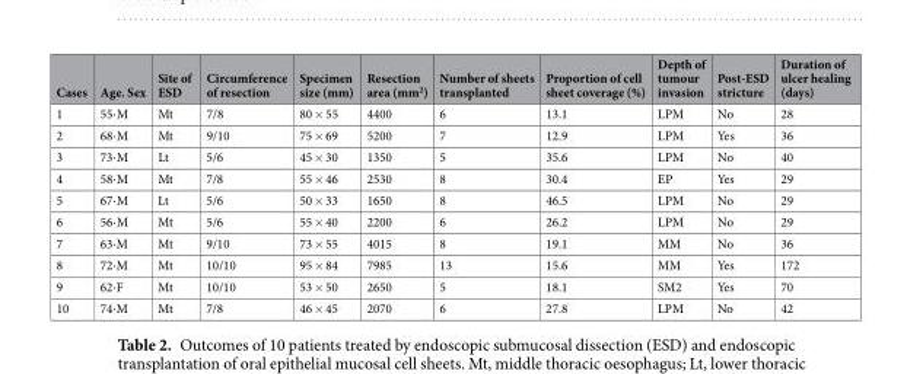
<table><thead><tr><td>Cases</td><td>Age. Sex</td><td>Site of ESD</td><td>Circumference of resection</td><td>Specimen size (mm)</td><td>Resection area (mm<sup>2</sup>)</td><td>Number of sheets transplanted</td><td>Proportion of cell sheet coverage (%)</td><td>Depth of tumour invasion</td><td>Post-ESD stricture</td><td>Duration of ulcer healing (days)</td></tr></thead><tbody><tr><td>1</td><td>55⋅M</td><td>Mt</td><td>7/8</td><td>80 × 55</td><td>4400</td><td>6</td><td>13.1</td><td>LPM</td><td>No</td><td>28</td></tr><tr><td>2</td><td>68⋅M</td><td>Mt</td><td>9/10</td><td>75 × 69</td><td>5200</td><td>7</td><td>12.9</td><td>LPM</td><td>Yes</td><td>36</td></tr><tr><td>3</td><td>73⋅M</td><td>Lt</td><td>5/6</td><td>45 × 30</td><td>1350</td><td>5</td><td>35.6</td><td>LPM</td><td>No</td><td>40</td></tr><tr><td>4</td><td>58⋅M</td><td>Mt</td><td>7/8</td><td>55 × 46</td><td>2530</td><td>8</td><td>30.4</td><td>EP</td><td>Yes</td><td>29</td></tr><tr><td>5</td><td>67⋅M</td><td>Lt</td><td>5/6</td><td>50 × 33</td><td>1650</td><td>8</td><td>46.5</td><td>LPM</td><td>No</td><td>29</td></tr><tr><td>6</td><td>56⋅M</td><td>Mt</td><td>5/6</td><td>55 × 40</td><td>2200</td><td>6</td><td>26.2</td><td>LPM</td><td>No</td><td>29</td></tr><tr><td>7</td><td>63⋅M</td><td>Mt</td><td>9/10</td><td>73 × 55</td><td>4015</td><td>8</td><td>19.1</td><td>MM</td><td>No</td><td>36</td></tr><tr><td>8</td><td>72⋅M</td><td>Mt</td><td>10/10</td><td>95 × 84</td><td>7985</td><td>13</td><td>15.6</td><td>MM</td><td>Yes</td><td>172</td></tr><tr><td>9</td><td>62⋅F</td><td>Mt</td><td>10/10</td><td>53 × 50</td><td>2650</td><td>5</td><td>18.1</td><td>SM2</td><td>Yes</td><td>70</td></tr><tr><td>10</td><td>74⋅M</td><td>Mt</td><td>7/8</td><td>46 × 45</td><td>2070</td><td>6</td><td>27.8</td><td>LPM</td><td>No</td><td>42</td></tr></tbody></table>